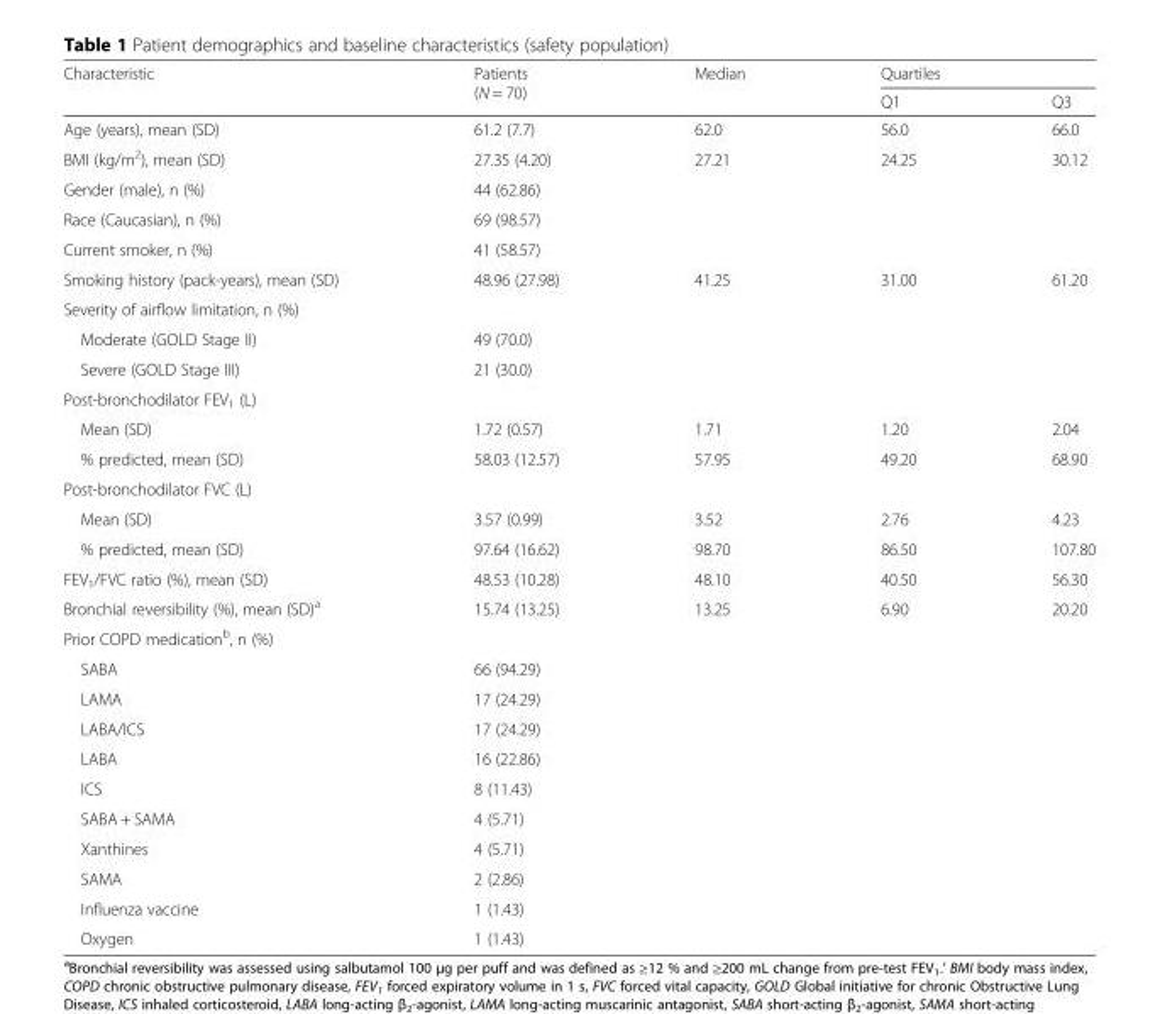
<table><thead><tr><td rowspan="2">Characteristic</td><td rowspan="2">Patients (N = 70)</td><td rowspan="2">Median</td><td colspan="2">Quartiles</td></tr><tr><td>Q1</td><td>Q3</td></tr></thead><tbody><tr><td>Age (years), mean (SD)</td><td>61.2 (7.7)</td><td>62.0</td><td>56.0</td><td>66.0</td></tr><tr><td>BMI (kg/m<sup>2</sup>), mean (SD)</td><td>27.35 (4.20)</td><td>27.21</td><td>24.25</td><td>30.12</td></tr><tr><td>Gender (male), n (%)</td><td>44 (62.86)</td><td></td><td></td><td></td></tr><tr><td>Race (Caucasian), n (%)</td><td>69 (98.57)</td><td></td><td></td><td></td></tr><tr><td>Current smoker, n (%)</td><td>41 (58.57)</td><td></td><td></td><td></td></tr><tr><td>Smoking history (pack-years), mean (SD)</td><td>48.96 (27.98)</td><td>41.25</td><td>31.00</td><td>61.20</td></tr><tr><td colspan="5">Severity of airflow limitation, n (%)</td></tr><tr><td>Moderate (GOLD Stage II)</td><td>49 (70.0)</td><td></td><td></td><td></td></tr><tr><td>Severe (GOLD Stage III)</td><td>21 (30.0)</td><td></td><td></td><td></td></tr><tr><td colspan="5">Post-bronchodilator FEV<sub>1</sub> (L)</td></tr><tr><td>Mean (SD)</td><td>1.72 (0.57)</td><td>1.71</td><td>1.20</td><td>2.04</td></tr><tr><td>% predicted, mean (SD)</td><td>58.03 (12.57)</td><td>57.95</td><td>49.20</td><td>68.90</td></tr><tr><td colspan="5">Post-bronchodilator FVC (L)</td></tr><tr><td>Mean (SD)</td><td>3.57 (0.99)</td><td>3.52</td><td>2.76</td><td>4.23</td></tr><tr><td>% predicted, mean (SD)</td><td>97.64 (16.62)</td><td>98.70</td><td>86.50</td><td>107.80</td></tr><tr><td>FEV<sub>1</sub>/FVC ratio (%), mean (SD)</td><td>48.53 (10.28)</td><td>48.10</td><td>40.50</td><td>56.30</td></tr><tr><td>Bronchial reversibility (%), mean (SD)<sup>a</sup></td><td>15.74 (13.25)</td><td>13.25</td><td>6.90</td><td>20.20</td></tr><tr><td colspan="5">Prior COPD medication<sup>b</sup>, n (%)</td></tr><tr><td>SABA</td><td>66 (94.29)</td><td></td><td></td><td></td></tr><tr><td>LAMA</td><td>17 (24.29)</td><td></td><td></td><td></td></tr><tr><td>LABA/ICS</td><td>17 (24.29)</td><td></td><td></td><td></td></tr><tr><td>LABA</td><td>16 (22.86)</td><td></td><td></td><td></td></tr><tr><td>ICS</td><td>8 (11.43)</td><td></td><td></td><td></td></tr><tr><td>SABA + SAMA</td><td>4 (5.71)</td><td></td><td></td><td></td></tr><tr><td>Xanthines</td><td>4 (5.71)</td><td></td><td></td><td></td></tr><tr><td>SAMA</td><td>2 (2.86)</td><td></td><td></td><td></td></tr><tr><td>Influenza vaccine</td><td>1 (1.43)</td><td></td><td></td><td></td></tr><tr><td>Oxygen</td><td>1 (1.43)</td><td></td><td></td><td></td></tr></tbody></table>